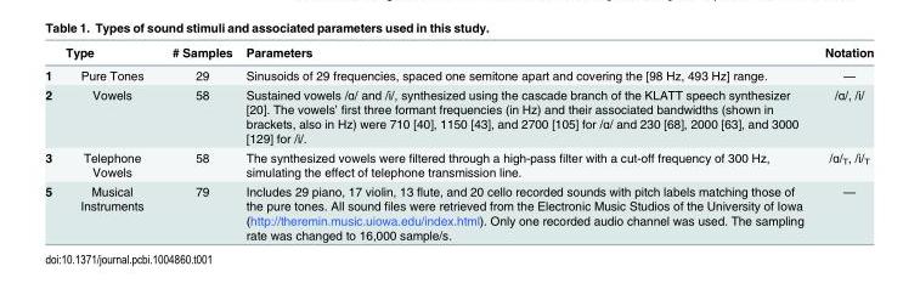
<table><thead><tr><td></td><td>Type</td><td># Samples</td><td>Parameters</td><td>Notation</td></tr></thead><tbody><tr><td>1</td><td>Pure Tones</td><td>29</td><td>Sinusoids of 29 frequencies, spaced one semitone apart and covering the [98 Hz, 493 Hz] range.</td><td>—</td></tr><tr><td>2</td><td>Vowels</td><td>58</td><td>Sustained vowels /ɑ/ and /i/, synthesized using the cascade branch of the KLATT speech synthesizer [20]. The vowels’ first three formant frequencies (in Hz) and their associated bandwidths (shown in brackets, also in Hz) were 710 [40], 1150 [43], and 2700 [105] for /ɑ/ and 230 [68], 2000 [63], and 3000 [129] for /i/.</td><td>/ɑ/, /i/</td></tr><tr><td>3</td><td>Telephone Vowels</td><td>58</td><td>The synthesized vowels were filtered through a high-pass filter with a cut-off frequency of 300 Hz, simulating the effect of telephone transmission line.</td><td>/ɑ/<sub>T</sub>, /i/<sub>T</sub></td></tr><tr><td>5</td><td>Musical Instruments</td><td>79</td><td>Includes 29 piano, 17 violin, 13 flute, and 20 cello recorded sounds with pitch labels matching those of the pure tones. All sound files were retrieved from the Electronic Music Studios of the University of Iowa (http://theremin.music.uiowa.edu/index.html). Only one recorded audio channel was used. The sampling rate was changed to 16,000 sample/s.</td><td>—</td></tr></tbody></table>